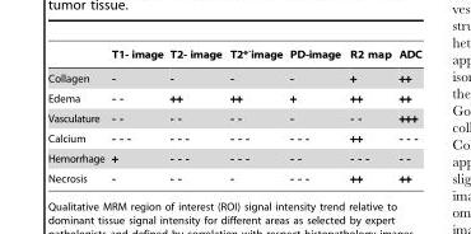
<table><thead><tr><td></td><td>T1- image</td><td>T2- image</td><td>T2*<sup>-</sup>image</td><td>PD-image</td><td>R2 map</td><td>ADC</td></tr></thead><tbody><tr><td>Collagen</td><td>-</td><td>-</td><td>-</td><td>-</td><td>+</td><td>++</td></tr><tr><td>Edema</td><td>- -</td><td>++</td><td>++</td><td>+</td><td>++</td><td>++</td></tr><tr><td>Vasculature</td><td>- -</td><td>- -</td><td>- -</td><td>-</td><td>- -</td><td>+++</td></tr><tr><td>Calcium</td><td>- - -</td><td>- - -</td><td>- - -</td><td>- - -</td><td>++</td><td>- - -</td></tr><tr><td>Hemorrhage</td><td>+</td><td>- - -</td><td>- - -</td><td>- -</td><td>- - -</td><td>- -</td></tr><tr><td>Necrosis</td><td>-</td><td>- -</td><td>-</td><td>- - -</td><td>++</td><td>++</td></tr></tbody></table>